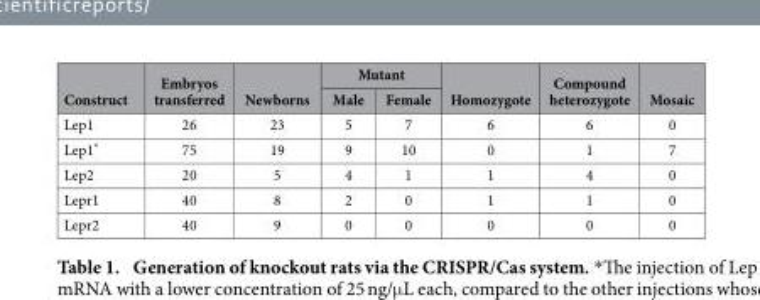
<table><thead><tr><td rowspan="2">Construct</td><td rowspan="2">Embryos transferred</td><td rowspan="2">Newborns</td><td colspan="2">Mutant</td><td rowspan="2">Homozygote</td><td rowspan="2">Compound heterozygote</td><td rowspan="2">Mosaic</td></tr><tr><td>Male</td><td>Female</td></tr></thead><tbody><tr><td>Lep1</td><td>26</td><td>23</td><td>5</td><td>7</td><td>6</td><td>6</td><td>0</td></tr><tr><td>Lep1*</td><td>75</td><td>19</td><td>9</td><td>10</td><td>0</td><td>1</td><td>7</td></tr><tr><td>Lep2</td><td>20</td><td>5</td><td>4</td><td>1</td><td>1</td><td>4</td><td>0</td></tr><tr><td>Lepr1</td><td>40</td><td>8</td><td>2</td><td>0</td><td>1</td><td>1</td><td>0</td></tr><tr><td>Lepr2</td><td>40</td><td>9</td><td>0</td><td>0</td><td>0</td><td>0</td><td>0</td></tr></tbody></table>